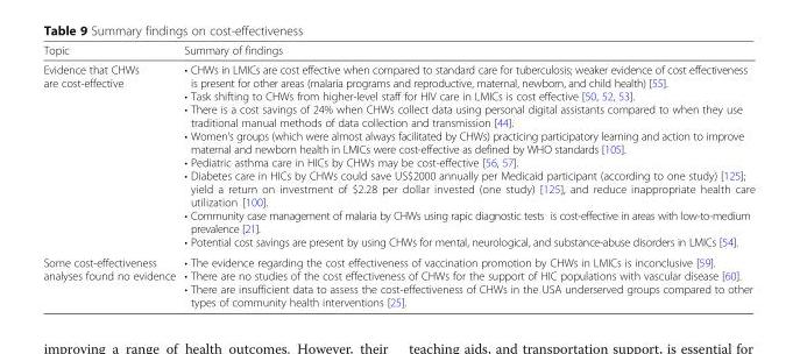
<table><thead><tr><td>Topic</td><td>Summary of findings</td></tr></thead><tbody><tr><td>Evidence that CHWs are cost-effective</td><td>• CHWs in LMICs are cost effective when compared to standard care for tuberculosis; weaker evidence of cost effectiveness is present for other areas (malaria programs and reproductive, maternal, newborn, and child health) [55]. • Task shifting to CHWs from higher-level staff for HIV care in LMICs is cost effective [50, 52, 53]. • There is a cost savings of 24% when CHWs collect data using personal digital assistants compared to when they use traditional manual methods of data collection and transmission [44]. • Women’s groups (which were almost always facilitated by CHWs) practicing participatory learning and action to improve maternal and newborn health in LMICs were cost-effective as defined by WHO standards [105]. • Pediatric asthma care in HICs by CHWs may be cost-effective [56, 57]. • Diabetes care in HICs by CHWs could save US$2000 annually per Medicaid participant (according to one study) [125]; yield a return on investment of $2.28 per dollar invested (one study) [125], and reduce inappropriate health care utilization [100]. • Community case management of malaria by CHWs using rapic diagnostic tests is cost-effective in areas with low-to-medium prevalence [21]. • Potential cost savings are present by using CHWs for mental, neurological, and substance-abuse disorders in LMICs [54].</td></tr><tr><td>Some cost-effectiveness analyses found no evidence</td><td>• The evidence regarding the cost effectiveness of vaccination promotion by CHWs in LMICs is inconclusive [59]. • There are no studies of the cost effectiveness of CHWs for the support of HIC populations with vascular disease [60]. • There are insufficient data to assess the cost-effectiveness of CHWs in the USA underserved groups compared to other types of community health interventions [25].</td></tr></tbody></table>